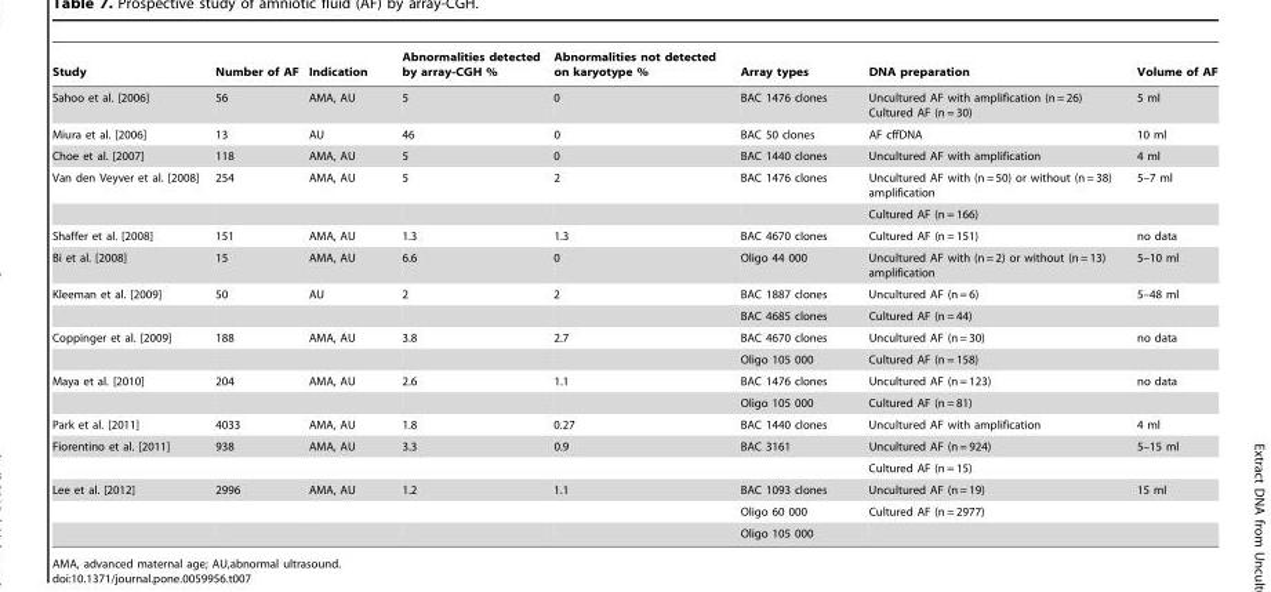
<table><thead><tr><td>Study</td><td>Number of AF</td><td>Indication</td><td>Abnormalities detected by array-CGH %</td><td>Abnormalities not detected on karyotype %</td><td>Array types</td><td>DNA preparation</td><td>Volume of AF</td></tr></thead><tbody><tr><td>Sahoo et al. [2006]</td><td>56</td><td>AMA, AU</td><td>5</td><td>0</td><td>BAC 1476 clones</td><td>Uncultured AF with amplification (n = 26) Cultured AF (n = 30)</td><td>5 ml</td></tr><tr><td>Miura et al. [2006]</td><td>13</td><td>AU</td><td>46</td><td>0</td><td>BAC 50 clones</td><td>AF cffDNA</td><td>10 ml</td></tr><tr><td>Choe et al. [2007]</td><td>118</td><td>AMA, AU</td><td>5</td><td>0</td><td>BAC 1440 clones</td><td>Uncultured AF with amplification</td><td>4 ml</td></tr><tr><td rowspan="2">Van den Veyver et al. [2008]</td><td>254</td><td>AMA, AU</td><td>5</td><td>2</td><td>BAC 1476 clones</td><td>Uncultured AF with (n = 50) or without (n = 38) amplification</td><td>5–7 ml</td></tr><tr><td></td><td></td><td></td><td></td><td></td><td>Cultured AF (n = 166)</td><td></td></tr><tr><td>Shaffer et al. [2008]</td><td>151</td><td>AMA, AU</td><td>1.3</td><td>1.3</td><td>BAC 4670 clones</td><td>Cultured AF (n = 151)</td><td>no data</td></tr><tr><td>Bi et al. [2008]</td><td>15</td><td>AMA, AU</td><td>6.6</td><td>0</td><td>Oligo 44 000</td><td>Uncultured AF with (n = 2) or without (n = 13) amplification</td><td>5–10 ml</td></tr><tr><td rowspan="2">Kleeman et al. [2009]</td><td>50</td><td>AU</td><td>2</td><td>2</td><td>BAC 1887 clones</td><td>Uncultured AF (n = 6)</td><td>5–48 ml</td></tr><tr><td></td><td></td><td></td><td></td><td>BAC 4685 clones</td><td>Cultured AF (n = 44)</td><td></td></tr><tr><td rowspan="2">Coppinger et al. [2009]</td><td>188</td><td>AMA, AU</td><td>3.8</td><td>2.7</td><td>BAC 4670 clones</td><td>Uncultured AF (n = 30)</td><td>no data</td></tr><tr><td></td><td></td><td></td><td></td><td>Oligo 105 000</td><td>Cultured AF (n = 158)</td><td></td></tr><tr><td rowspan="2">Maya et al. [2010]</td><td>204</td><td>AMA, AU</td><td>2.6</td><td>1.1</td><td>BAC 1476 clones</td><td>Uncultured AF (n = 123)</td><td>no data</td></tr><tr><td></td><td></td><td></td><td></td><td>Oligo 105 000</td><td>Cultured AF (n = 81)</td><td></td></tr><tr><td>Park et al. [2011]</td><td>4033</td><td>AMA, AU</td><td>1.8</td><td>0.27</td><td>BAC 1440 clones</td><td>Uncultured AF with amplification</td><td>4 ml</td></tr><tr><td rowspan="2">Fiorentino et al. [2011]</td><td>938</td><td>AMA, AU</td><td>3.3</td><td>0.9</td><td>BAC 3161</td><td>Uncultured AF (n = 924)</td><td>5–15 ml</td></tr><tr><td></td><td></td><td></td><td></td><td></td><td>Cultured AF (n = 15)</td><td></td></tr><tr><td rowspan="3">Lee et al. [2012]</td><td>2996</td><td>AMA, AU</td><td>1.2</td><td>1.1</td><td>BAC 1093 clones</td><td>Uncultured AF (n = 19)</td><td>15 ml</td></tr><tr><td></td><td></td><td></td><td></td><td>Oligo 60 000</td><td>Cultured AF (n = 2977)</td><td></td></tr><tr><td></td><td></td><td></td><td></td><td>Oligo 105 000</td><td></td><td></td></tr></tbody></table>